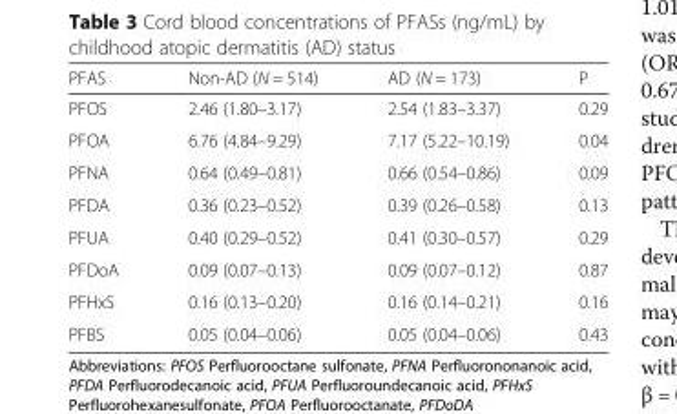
<table><thead><tr><td>PFAS</td><td>Non-AD (N = 514)</td><td>AD (N = 173)</td><td>P</td></tr></thead><tbody><tr><td>PFOS</td><td>2.46 (1.80–3.17)</td><td>2.54 (1.83–3.37)</td><td>0.29</td></tr><tr><td>PFOA</td><td>6.76 (4.84–9.29)</td><td>7.17 (5.22–10.19)</td><td>0.04</td></tr><tr><td>PFNA</td><td>0.64 (0.49–0.81)</td><td>0.66 (0.54–0.86)</td><td>0.09</td></tr><tr><td>PFDA</td><td>0.36 (0.23–0.52)</td><td>0.39 (0.26–0.58)</td><td>0.13</td></tr><tr><td>PFUA</td><td>0.40 (0.29–0.52)</td><td>0.41 (0.30–0.57)</td><td>0.29</td></tr><tr><td>PFDoA</td><td>0.09 (0.07–0.13)</td><td>0.09 (0.07–0.12)</td><td>0.87</td></tr><tr><td>PFHxS</td><td>0.16 (0.13–0.20)</td><td>0.16 (0.14–0.21)</td><td>0.16</td></tr><tr><td>PFBS</td><td>0.05 (0.04–0.06)</td><td>0.05 (0.04–0.06)</td><td>0.43</td></tr></tbody></table>